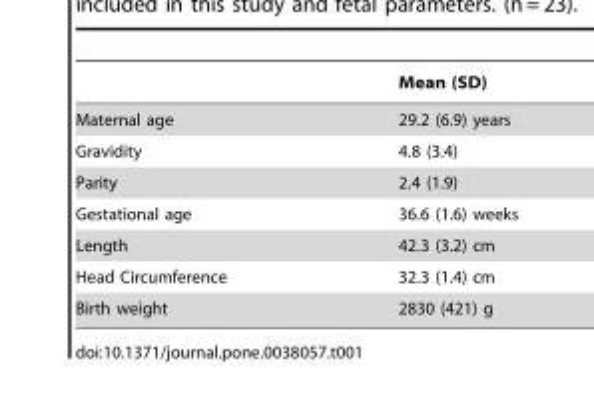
<table><thead><tr><td></td><td>Mean (SD)</td></tr></thead><tbody><tr><td>Maternal age</td><td>29.2 (6.9) years</td></tr><tr><td>Gravidity</td><td>4.8 (3.4)</td></tr><tr><td>Parity</td><td>2.4 (1.9)</td></tr><tr><td>Gestational age</td><td>36.6 (1.6) weeks</td></tr><tr><td>Length</td><td>42.3 (3.2) cm</td></tr><tr><td>Head Circumference</td><td>32.3 (1.4) cm</td></tr><tr><td>Birth weight</td><td>2830 (421) g</td></tr></tbody></table>